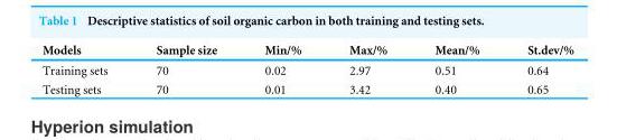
<table><thead><tr><td>Models</td><td>Sample size</td><td>Min/%</td><td>Max/%</td><td>Mean/%</td><td>St.dev/%</td></tr></thead><tbody><tr><td>Training sets</td><td>70</td><td>0.02</td><td>2.97</td><td>0.51</td><td>0.64</td></tr><tr><td>Testing sets</td><td>70</td><td>0.01</td><td>3.42</td><td>0.40</td><td>0.65</td></tr></tbody></table>